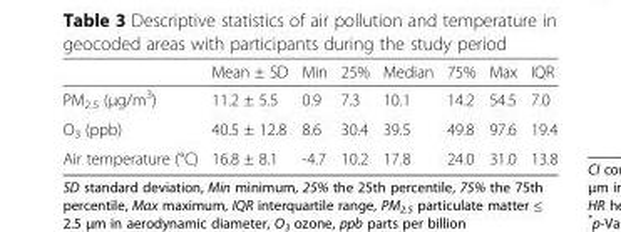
<table><thead><tr><td></td><td>Mean ± SD</td><td>Min</td><td>25%</td><td>Median</td><td>75%</td><td>Max</td><td>IQR</td></tr></thead><tbody><tr><td>PM<sub>2.5</sub> (μg/m<sup>3</sup>)</td><td>11.2 ± 5.5</td><td>0.9</td><td>7.3</td><td>10.1</td><td>14.2</td><td>54.5</td><td>7.0</td></tr><tr><td>O<sub>3</sub> (ppb)</td><td>40.5 ± 12.8</td><td>8.6</td><td>30.4</td><td>39.5</td><td>49.8</td><td>97.6</td><td>19.4</td></tr><tr><td>Air temperature (°C)</td><td>16.8 ± 8.1</td><td>-4.7</td><td>10.2</td><td>17.8</td><td>24.0</td><td>31.0</td><td>13.8</td></tr></tbody></table>